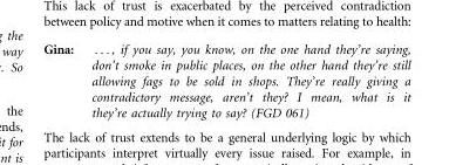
<table><tbody><tr><td>Gina:</td><td>. . . , if you say, you know, on the one hand they’re saying, don’t smoke in public places, on the other hand they’re still allowing fags to be sold in shops. They’re really giving a contradictory message, aren’t they? I mean, what is it they’re actually trying to say? (FGD 061)</td></tr></tbody></table>